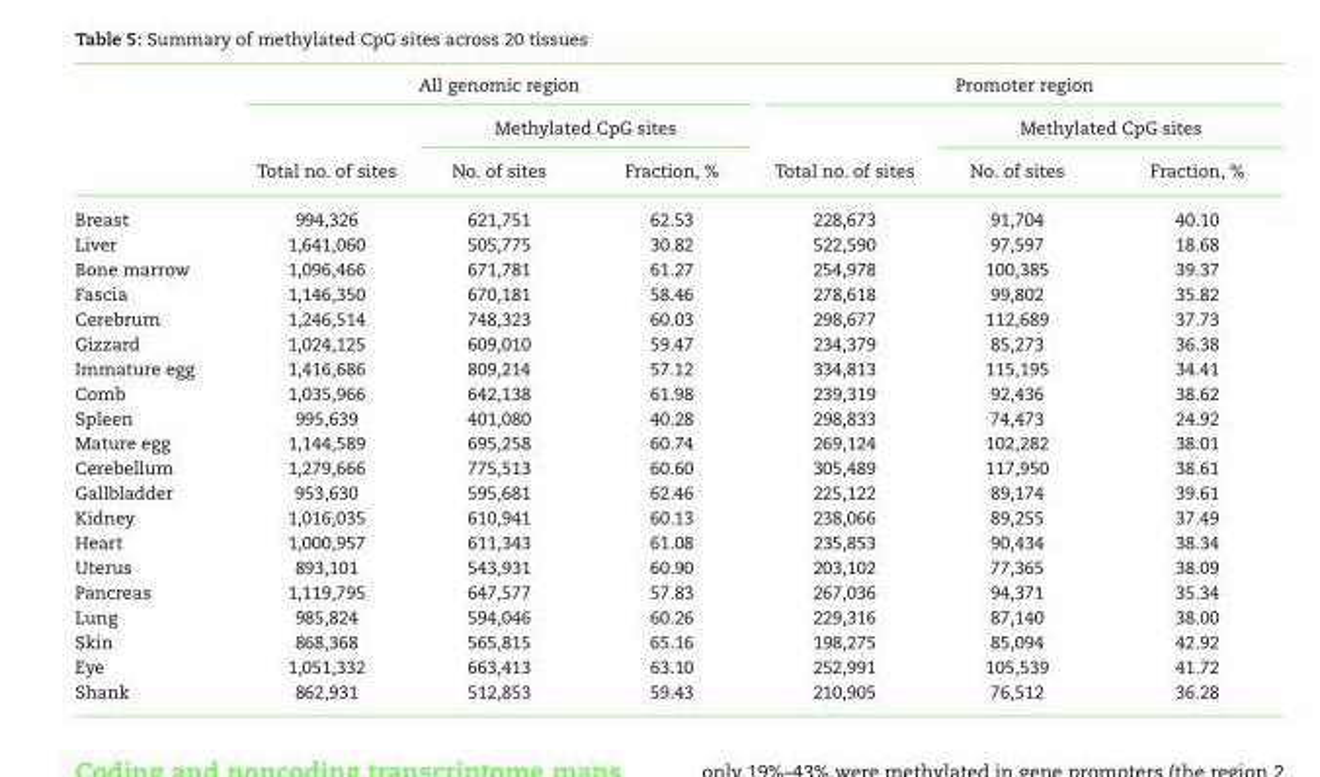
<table><thead><tr><td rowspan="3"></td><td colspan="3">All genomic region</td><td colspan="3">Promoter region</td></tr><tr><td rowspan="2">Total no. of sites</td><td colspan="2">Methylated CpG sites</td><td rowspan="2">Total no. of sites</td><td colspan="2">Methylated CpG sites</td></tr><tr><td>No. of sites</td><td>Fraction, %</td><td>No. of sites</td><td>Fraction, %</td></tr></thead><tbody><tr><td>Breast</td><td>994,326</td><td>621,751</td><td>62.53</td><td>228,673</td><td>91,704</td><td>40.10</td></tr><tr><td>Liver</td><td>1,641,060</td><td>505,775</td><td>30.82</td><td>522,590</td><td>97,597</td><td>18.68</td></tr><tr><td>Bone marrow</td><td>1,096,466</td><td>671,781</td><td>61.27</td><td>254,978</td><td>100,385</td><td>39.37</td></tr><tr><td>Fascia</td><td>1,146,350</td><td>670,181</td><td>58.46</td><td>278,618</td><td>99,802</td><td>35.82</td></tr><tr><td>Cerebrum</td><td>1,246,514</td><td>748,323</td><td>60.03</td><td>298,677</td><td>112,689</td><td>37.73</td></tr><tr><td>Gizzard</td><td>1,024,125</td><td>609,010</td><td>59.47</td><td>234,379</td><td>85,273</td><td>36.38</td></tr><tr><td>Immature egg</td><td>1,416,686</td><td>809,214</td><td>57.12</td><td>334,813</td><td>115,195</td><td>34.41</td></tr><tr><td>Comb</td><td>1,035,966</td><td>642,138</td><td>61.98</td><td>239,319</td><td>92,436</td><td>38.62</td></tr><tr><td>Spleen</td><td>995,639</td><td>401,080</td><td>40.28</td><td>298,833</td><td>74,473</td><td>24.92</td></tr><tr><td>Mature egg</td><td>1,144,589</td><td>695,258</td><td>60.74</td><td>269,124</td><td>102,282</td><td>38.01</td></tr><tr><td>Cerebellum</td><td>1,279,666</td><td>775,513</td><td>60.60</td><td>305,489</td><td>117,950</td><td>38.61</td></tr><tr><td>Gallbladder</td><td>953,630</td><td>595,681</td><td>62.46</td><td>225,122</td><td>89,174</td><td>39.61</td></tr><tr><td>Kidney</td><td>1,016,035</td><td>610,941</td><td>60.13</td><td>238,066</td><td>89,255</td><td>37.49</td></tr><tr><td>Heart</td><td>1,000,957</td><td>611,343</td><td>61.08</td><td>235,853</td><td>90,434</td><td>38.34</td></tr><tr><td>Uterus</td><td>893,101</td><td>543,931</td><td>60.90</td><td>203,102</td><td>77,365</td><td>38.09</td></tr><tr><td>Pancreas</td><td>1,119,795</td><td>647,577</td><td>57.83</td><td>267,036</td><td>94,371</td><td>35.34</td></tr><tr><td>Lung</td><td>985,824</td><td>594,046</td><td>60.26</td><td>229,316</td><td>87,140</td><td>38.00</td></tr><tr><td>Skin</td><td>868,368</td><td>565,815</td><td>65.16</td><td>198,275</td><td>85,094</td><td>42.92</td></tr><tr><td>Eye</td><td>1,051,332</td><td>663,413</td><td>63.10</td><td>252,991</td><td>105,539</td><td>41.72</td></tr><tr><td>Shank</td><td>862,931</td><td>512,853</td><td>59.43</td><td>210,905</td><td>76,512</td><td>36.28</td></tr></tbody></table>